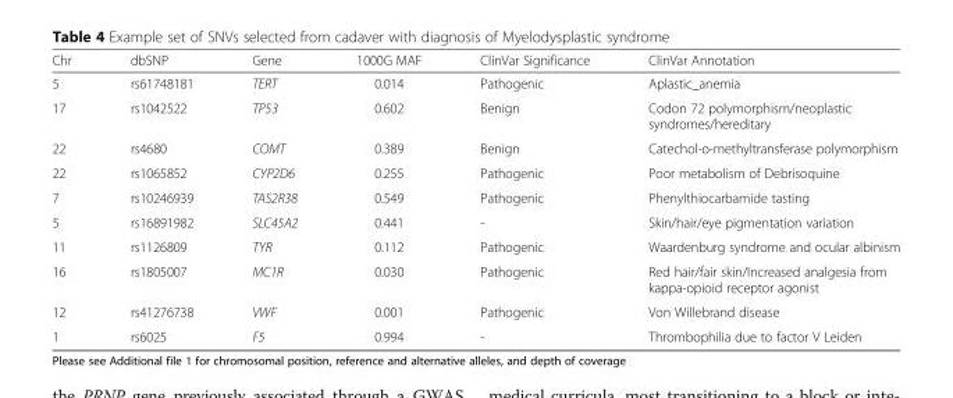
<table><thead><tr><td>Chr</td><td>dbSNP</td><td>Gene</td><td>1000G MAF</td><td>ClinVar Significance</td><td>ClinVar Annotation</td></tr></thead><tbody><tr><td>5</td><td>rs61748181</td><td>TERT</td><td>0.014</td><td>Pathogenic</td><td>Aplastic_anemia</td></tr><tr><td>17</td><td>rs1042522</td><td>TP53</td><td>0.602</td><td>Benign</td><td>Codon 72 polymorphism/neoplastic syndromes/hereditary</td></tr><tr><td>22</td><td>rs4680</td><td>COMT</td><td>0.389</td><td>Benign</td><td>Catechol-o-methyltransferase polymorphism</td></tr><tr><td>22</td><td>rs1065852</td><td>CYP2D6</td><td>0.255</td><td>Pathogenic</td><td>Poor metabolism of Debrisoquine</td></tr><tr><td>7</td><td>rs10246939</td><td>TAS2R38</td><td>0.549</td><td>Pathogenic</td><td>Phenylthiocarbamide tasting</td></tr><tr><td>5</td><td>rs16891982</td><td>SLC45A2</td><td>0.441</td><td>-</td><td>Skin/hair/eye pigmentation variation</td></tr><tr><td>11</td><td>rs1126809</td><td>TYR</td><td>0.112</td><td>Pathogenic</td><td>Waardenburg syndrome and ocular albinism</td></tr><tr><td>16</td><td>rs1805007</td><td>MC1R</td><td>0.030</td><td>Pathogenic</td><td>Red hair/fair skin/Increased analgesia from kappa-opioid receptor agonist</td></tr><tr><td>12</td><td>rs41276738</td><td>VWF</td><td>0.001</td><td>Pathogenic</td><td>Von Willebrand disease</td></tr><tr><td>1</td><td>rs6025</td><td>F5</td><td>0.994</td><td>-</td><td>Thrombophilia due to factor V Leiden</td></tr></tbody></table>